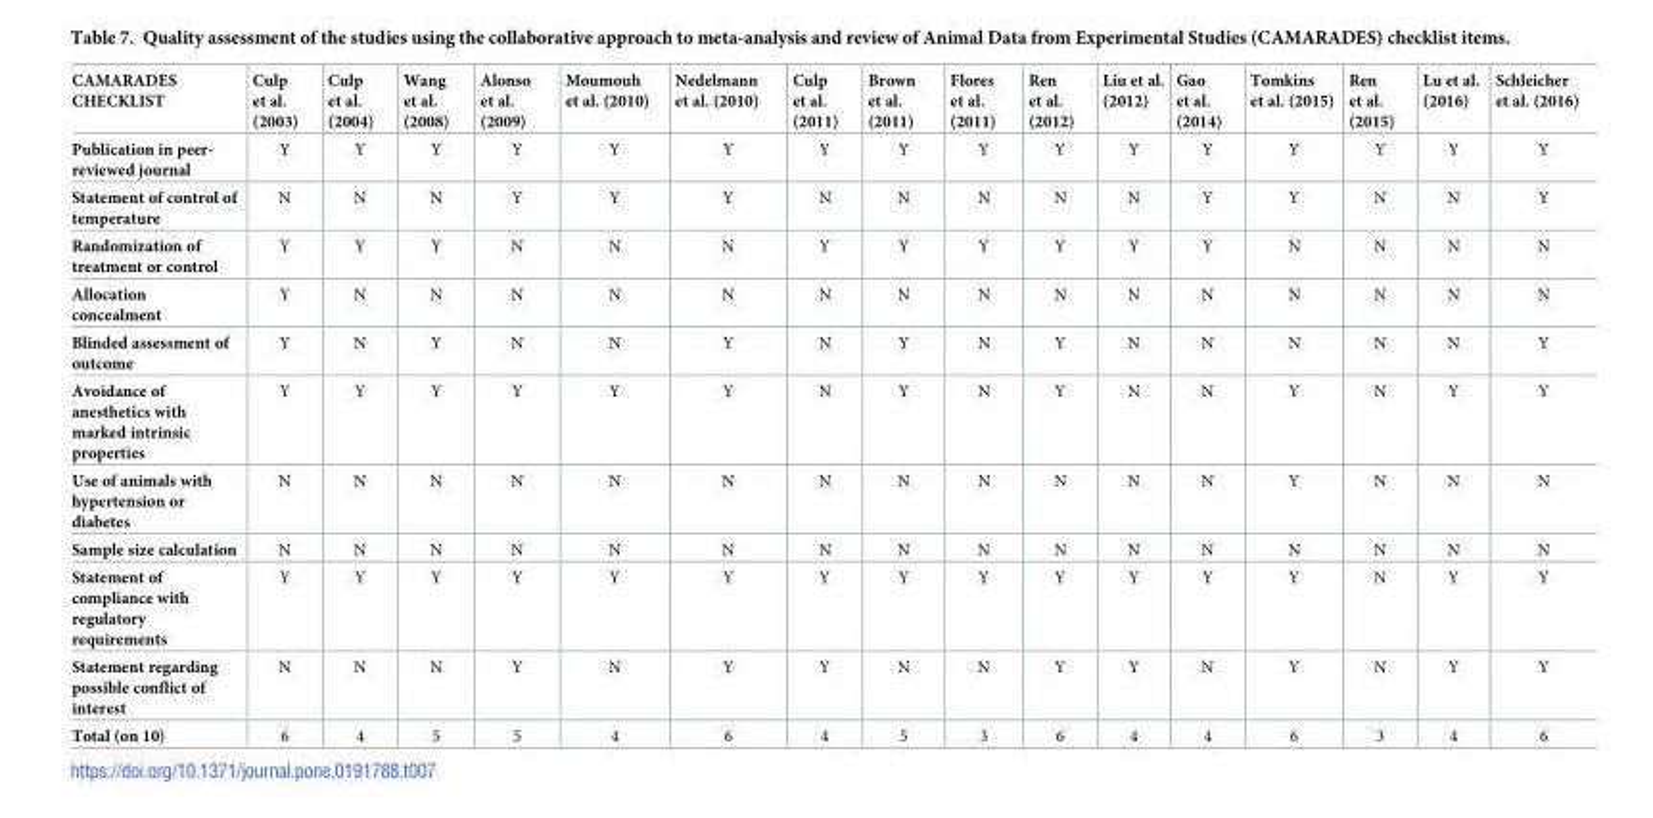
<table><thead><tr><td>CAMARADES CHECKLIST</td><td>Culp et al. (2003)</td><td>Culp et al. (2004)</td><td>Wang et al. (2008)</td><td>Alonso et al. (2009)</td><td>Moumouh et al. (2010)</td><td>Nedelmann et al. (2010)</td><td>Culp et al. (2011)</td><td>Brown et al. (2011)</td><td>Flores et al. (2011)</td><td>Ren et al. (2012)</td><td>Liu et al. (2012)</td><td>Gao et al. (2014)</td><td>Tomkins et al. (2015)</td><td>Ren et al. (2015)</td><td>Lu et al. (2016)</td><td>Schleicher et al. (2016)</td></tr></thead><tbody><tr><td>Publication in peer- reviewed journal</td><td>Y</td><td>Y</td><td>Y</td><td>Y</td><td>Y</td><td>Y</td><td>Y</td><td>Y</td><td>Y</td><td>Y</td><td>Y</td><td>Y</td><td>Y</td><td>Y</td><td>Y</td><td>Y</td></tr><tr><td>Statement of control of temperature</td><td>N</td><td>N</td><td>N</td><td>Y</td><td>Y</td><td>Y</td><td>N</td><td>N</td><td>N</td><td>N</td><td>N</td><td>Y</td><td>Y</td><td>N</td><td>N</td><td>Y</td></tr><tr><td>Randomization of treatment or control</td><td>Y</td><td>Y</td><td>Y</td><td>N</td><td>N</td><td>N</td><td>Y</td><td>Y</td><td>Y</td><td>Y</td><td>Y</td><td>Y</td><td>N</td><td>N</td><td>N</td><td>N</td></tr><tr><td>Allocation concealment</td><td>Y</td><td>N</td><td>N</td><td>N</td><td>N</td><td>N</td><td>N</td><td>N</td><td>N</td><td>N</td><td>N</td><td>N</td><td>N</td><td>N</td><td>N</td><td>N</td></tr><tr><td>Blinded assessment of outcome</td><td>Y</td><td>N</td><td>Y</td><td>N</td><td>N</td><td>Y</td><td>N</td><td>Y</td><td>N</td><td>Y</td><td>N</td><td>N</td><td>N</td><td>N</td><td>N</td><td>Y</td></tr><tr><td>Avoidance of anesthetics with marked intrinsic properties</td><td>Y</td><td>Y</td><td>Y</td><td>Y</td><td>Y</td><td>Y</td><td>N</td><td>Y</td><td>N</td><td>Y</td><td>N</td><td>N</td><td>Y</td><td>N</td><td>Y</td><td>Y</td></tr><tr><td>Use of animals with hypertension or diabetes</td><td>N</td><td>N</td><td>N</td><td>N</td><td>N</td><td>N</td><td>N</td><td>N</td><td>N</td><td>N</td><td>N</td><td>N</td><td>Y</td><td>N</td><td>N</td><td>N</td></tr><tr><td>Sample size calculation</td><td>N</td><td>N</td><td>N</td><td>N</td><td>N</td><td>N</td><td>N</td><td>N</td><td>N</td><td>N</td><td>N</td><td>N</td><td>N</td><td>N</td><td>N</td><td>N</td></tr><tr><td>Statement of compliance with regulatory requirements</td><td>Y</td><td>Y</td><td>Y</td><td>Y</td><td>Y</td><td>Y</td><td>Y</td><td>Y</td><td>Y</td><td>Y</td><td>Y</td><td>Y</td><td>Y</td><td>N</td><td>Y</td><td>Y</td></tr><tr><td>Statement regarding possible conflict of interest</td><td>N</td><td>N</td><td>N</td><td>Y</td><td>N</td><td>Y</td><td>Y</td><td>N</td><td>N</td><td>Y</td><td>Y</td><td>N</td><td>Y</td><td>N</td><td>Y</td><td>Y</td></tr><tr><td>Total (on 10)</td><td>6</td><td>4</td><td>5</td><td>5</td><td>4</td><td>6</td><td>4</td><td>5</td><td>3</td><td>6</td><td>4</td><td>4</td><td>6</td><td>3</td><td>4</td><td>6</td></tr></tbody></table>